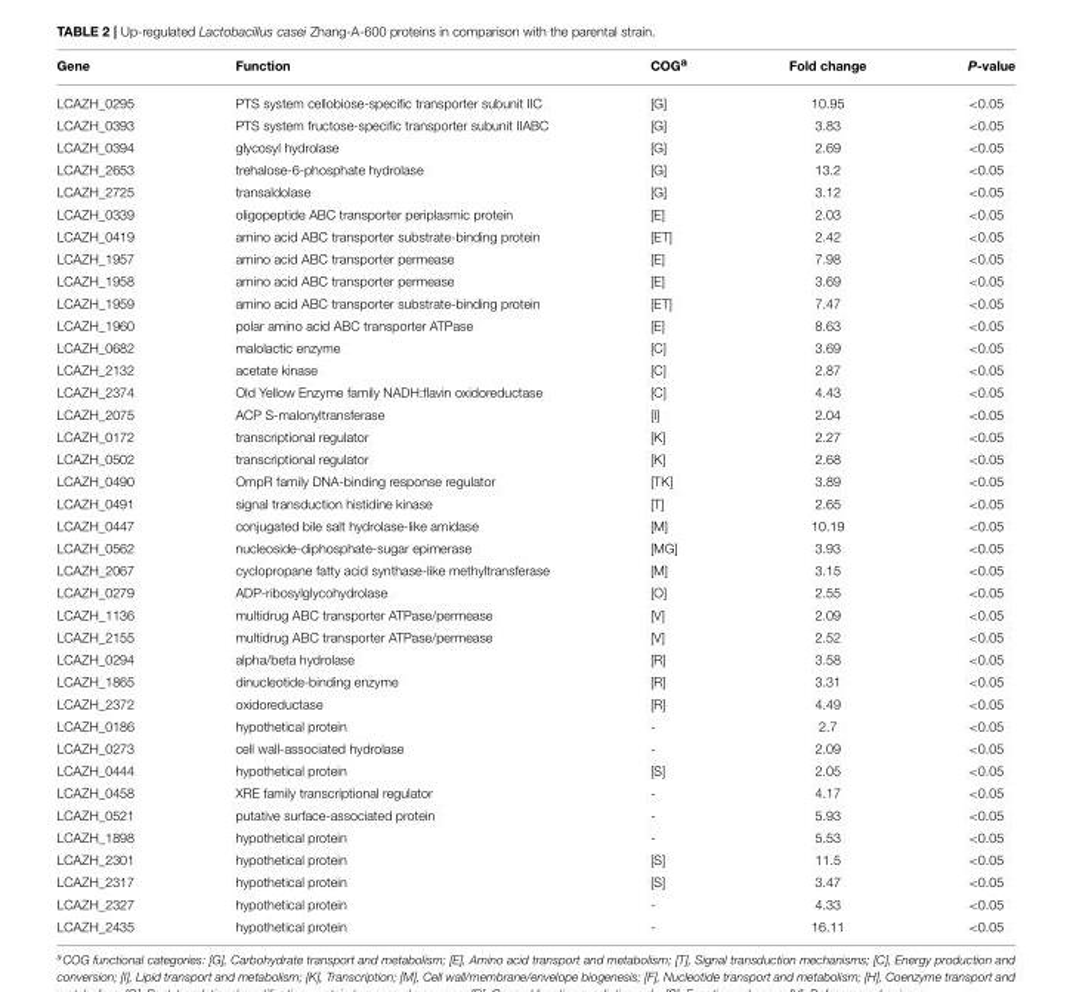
<table><thead><tr><td>Gene</td><td>Function</td><td>COG<sup>a</sup></td><td>Fold change</td><td>P-value</td></tr></thead><tbody><tr><td>LCAZH_0295</td><td>PTS system cellobiose-specific transporter subunit IIC</td><td>[G]</td><td>10.95</td><td>&lt;0.05</td></tr><tr><td>LCAZH_0393</td><td>PTS system fructose-specific transporter subunit IIABC</td><td>[G]</td><td>3.83</td><td>&lt;0.05</td></tr><tr><td>LCAZH_0394</td><td>glycosyl hydrolase</td><td>[G]</td><td>2.69</td><td>&lt;0.05</td></tr><tr><td>LCAZH_2653</td><td>trehalose-6-phosphate hydrolase</td><td>[G]</td><td>13.2</td><td>&lt;0.05</td></tr><tr><td>LCAZH_2725</td><td>transaldolase</td><td>[G]</td><td>3.12</td><td>&lt;0.05</td></tr><tr><td>LCAZH_0339</td><td>oligopeptide ABC transporter periplasmic protein</td><td>[E]</td><td>2.03</td><td>&lt;0.05</td></tr><tr><td>LCAZH_0419</td><td>amino acid ABC transporter substrate-binding protein</td><td>[ET]</td><td>2.42</td><td>&lt;0.05</td></tr><tr><td>LCAZH_1957</td><td>amino acid ABC transporter permease</td><td>[E]</td><td>7.98</td><td>&lt;0.05</td></tr><tr><td>LCAZH_1958</td><td>amino acid ABC transporter permease</td><td>[E]</td><td>3.69</td><td>&lt;0.05</td></tr><tr><td>LCAZH_1959</td><td>amino acid ABC transporter substrate-binding protein</td><td>[ET]</td><td>7.47</td><td>&lt;0.05</td></tr><tr><td>LCAZH_1960</td><td>polar amino acid ABC transporter ATPase</td><td>[E]</td><td>8.63</td><td>&lt;0.05</td></tr><tr><td>LCAZH_0682</td><td>malolactic enzyme</td><td>[C]</td><td>3.69</td><td>&lt;0.05</td></tr><tr><td>LCAZH_2132</td><td>acetate kinase</td><td>[C]</td><td>2.87</td><td>&lt;0.05</td></tr><tr><td>LCAZH_2374</td><td>Old Yellow Enzyme family NADH:flavin oxidoreductase</td><td>[C]</td><td>4.43</td><td>&lt;0.05</td></tr><tr><td>LCAZH_2075</td><td>ACP S-malonyltransferase</td><td>[I]</td><td>2.04</td><td>&lt;0.05</td></tr><tr><td>LCAZH_0172</td><td>transcriptional regulator</td><td>[K]</td><td>2.27</td><td>&lt;0.05</td></tr><tr><td>LCAZH_0502</td><td>transcriptional regulator</td><td>[K]</td><td>2.68</td><td>&lt;0.05</td></tr><tr><td>LCAZH_0490</td><td>OmpR family DNA-binding response regulator</td><td>[TK]</td><td>3.89</td><td>&lt;0.05</td></tr><tr><td>LCAZH_0491</td><td>signal transduction histidine kinase</td><td>[T]</td><td>2.65</td><td>&lt;0.05</td></tr><tr><td>LCAZH_0447</td><td>conjugated bile salt hydrolase-like amidase</td><td>[M]</td><td>10.19</td><td>&lt;0.05</td></tr><tr><td>LCAZH_0562</td><td>nucleoside-diphosphate-sugar epimerase</td><td>[MG]</td><td>3.93</td><td>&lt;0.05</td></tr><tr><td>LCAZH_2067</td><td>cyclopropane fatty acid synthase-like methyltransferase</td><td>[M]</td><td>3.15</td><td>&lt;0.05</td></tr><tr><td>LCAZH_0279</td><td>ADP-ribosylglycohydrolase</td><td>[O]</td><td>2.55</td><td>&lt;0.05</td></tr><tr><td>LCAZH_1136</td><td>multidrug ABC transporter ATPase/permease</td><td>[V]</td><td>2.09</td><td>&lt;0.05</td></tr><tr><td>LCAZH_2155</td><td>multidrug ABC transporter ATPase/permease</td><td>[V]</td><td>2.52</td><td>&lt;0.05</td></tr><tr><td>LCAZH_0294</td><td>alpha/beta hydrolase</td><td>[R]</td><td>3.58</td><td>&lt;0.05</td></tr><tr><td>LCAZH_1865</td><td>dinucleotide-binding enzyme</td><td>[R]</td><td>3.31</td><td>&lt;0.05</td></tr><tr><td>LCAZH_2372</td><td>oxidoreductase</td><td>[R]</td><td>4.49</td><td>&lt;0.05</td></tr><tr><td>LCAZH_0186</td><td>hypothetical protein</td><td>-</td><td>2.7</td><td>&lt;0.05</td></tr><tr><td>LCAZH_0273</td><td>cell wall-associated hydrolase</td><td>-</td><td>2.09</td><td>&lt;0.05</td></tr><tr><td>LCAZH_0444</td><td>hypothetical protein</td><td>[S]</td><td>2.05</td><td>&lt;0.05</td></tr><tr><td>LCAZH_0458</td><td>XRE family transcriptional regulator</td><td>-</td><td>4.17</td><td>&lt;0.05</td></tr><tr><td>LCAZH_0521</td><td>putative surface-associated protein</td><td>-</td><td>5.93</td><td>&lt;0.05</td></tr><tr><td>LCAZH_1898</td><td>hypothetical protein</td><td>-</td><td>5.53</td><td>&lt;0.05</td></tr><tr><td>LCAZH_2301</td><td>hypothetical protein</td><td>[S]</td><td>11.5</td><td>&lt;0.05</td></tr><tr><td>LCAZH_2317</td><td>hypothetical protein</td><td>[S]</td><td>3.47</td><td>&lt;0.05</td></tr><tr><td>LCAZH_2327</td><td>hypothetical protein</td><td>-</td><td>4.33</td><td>&lt;0.05</td></tr><tr><td>LCAZH_2435</td><td>hypothetical protein</td><td>-</td><td>16.11</td><td>&lt;0.05</td></tr></tbody></table>